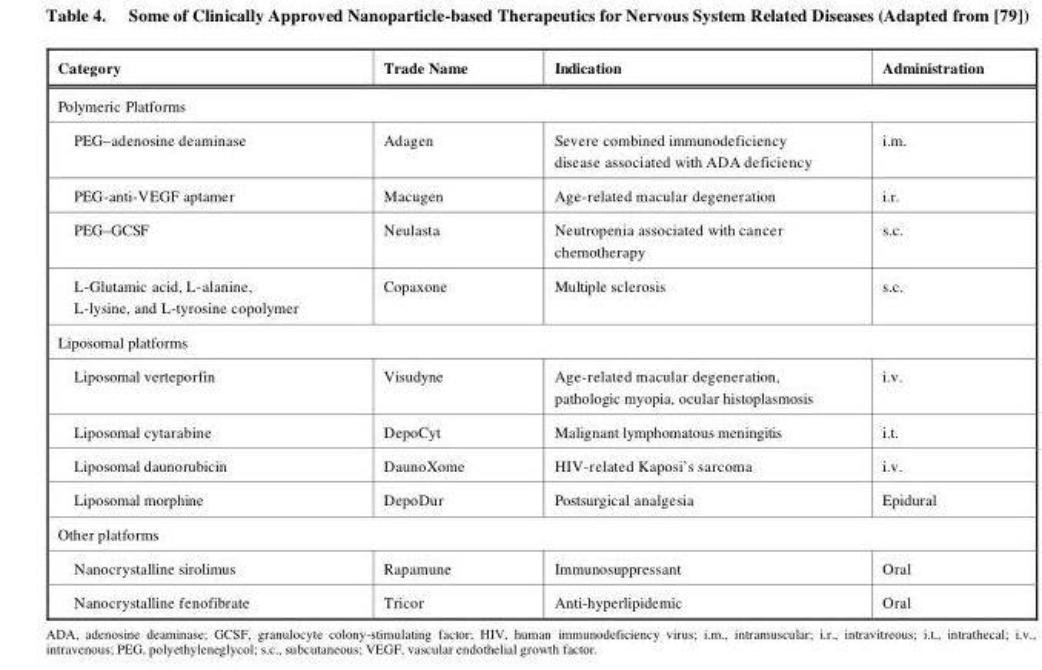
<table><thead><tr><td>Category</td><td>Trade Name</td><td>Indication</td><td>Administration</td></tr></thead><tbody><tr><td colspan="4">Polymeric Platforms</td></tr><tr><td>PEG–adenosine deaminase</td><td>Adagen</td><td>Severe combined immunodeficiency disease associated with ADA deficiency</td><td>i.m.</td></tr><tr><td>PEG-anti-VEGF aptamer</td><td>Macugen</td><td>Age-related macular degeneration</td><td>i.r.</td></tr><tr><td>PEG–GCSF</td><td>Neulasta</td><td>Neutropenia associated with cancer chemotherapy</td><td>s.c.</td></tr><tr><td>L-Glutamic acid, L-alanine, L-lysine, and L-tyrosine copolymer</td><td>Copaxone</td><td>Multiple sclerosis</td><td>s.c.</td></tr><tr><td colspan="4">Liposomal platforms</td></tr><tr><td>Liposomal verteporfin</td><td>Visudyne</td><td>Age-related macular degeneration, pathologic myopia, ocular histoplasmosis</td><td>i.v.</td></tr><tr><td>Liposomal cytarabine</td><td>DepoCyt</td><td>Malignant lymphomatous meningitis</td><td>i.t.</td></tr><tr><td>Liposomal daunorubicin</td><td>DaunoXome</td><td>HIV-related Kaposi’s sarcoma</td><td>i.v.</td></tr><tr><td>Liposomal morphine</td><td>DepoDur</td><td>Postsurgical analgesia</td><td>Epidural</td></tr><tr><td colspan="4">Other platforms</td></tr><tr><td>Nanocrystalline sirolimus</td><td>Rapamune</td><td>Immunosuppressant</td><td>Oral</td></tr><tr><td>Nanocrystalline fenofibrate</td><td>Tricor</td><td>Anti-hyperlipidemic</td><td>Oral</td></tr></tbody></table>